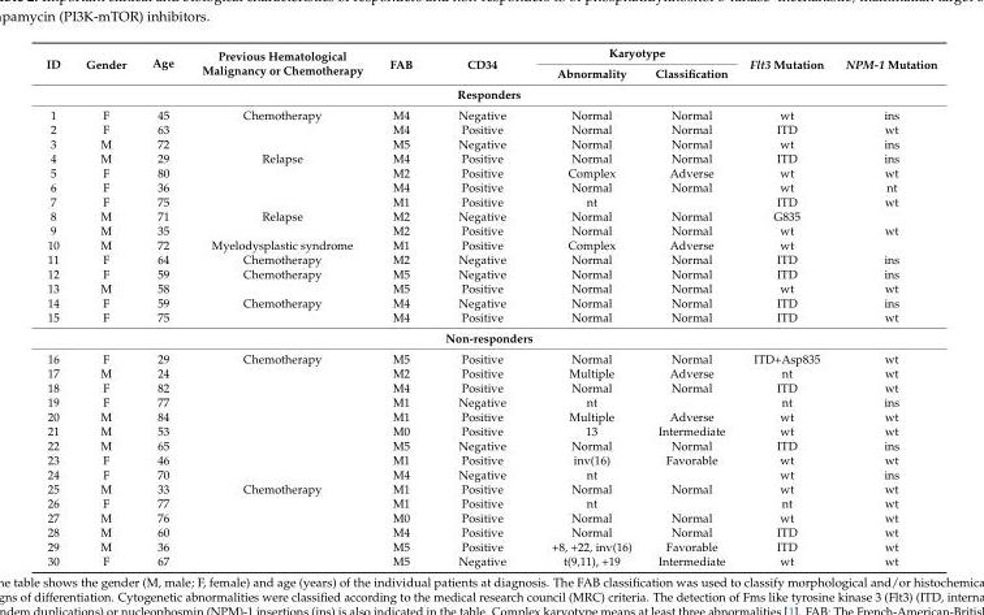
<table><thead><tr><td rowspan="2">ID</td><td rowspan="2">Gender</td><td rowspan="2">Age</td><td rowspan="2">Previous Hematological Malignancy or Chemotherapy</td><td rowspan="2">FAB</td><td rowspan="2">CD34</td><td colspan="2">Karyotype</td><td rowspan="2">Flt3 Mutation</td><td rowspan="2">NPM-1 Mutation</td></tr><tr><td>Abnormality</td><td>Classification</td></tr></thead><tbody><tr><td colspan="10">Responders</td></tr><tr><td>1</td><td>F</td><td>45</td><td>Chemotherapy</td><td>M4</td><td>Negative</td><td>Normal</td><td>Normal</td><td>wt</td><td>ins</td></tr><tr><td>2</td><td>F</td><td>63</td><td></td><td>M4</td><td>Positive</td><td>Normal</td><td>Normal</td><td>ITD</td><td>wt</td></tr><tr><td>3</td><td>M</td><td>72</td><td></td><td>M5</td><td>Negative</td><td>Normal</td><td>Normal</td><td>wt</td><td>ins</td></tr><tr><td>4</td><td>M</td><td>29</td><td>Relapse</td><td>M4</td><td>Positive</td><td>Normal</td><td>Normal</td><td>ITD</td><td>ins</td></tr><tr><td>5</td><td>F</td><td>80</td><td></td><td>M2</td><td>Positive</td><td>Complex</td><td>Adverse</td><td>wt</td><td>wt</td></tr><tr><td>6</td><td>F</td><td>36</td><td></td><td>M4</td><td>Positive</td><td>Normal</td><td>Normal</td><td>wt</td><td>nt</td></tr><tr><td>7</td><td>F</td><td>75</td><td></td><td>M1</td><td>Positive</td><td>nt</td><td></td><td>ITD</td><td>wt</td></tr><tr><td>8</td><td>M</td><td>71</td><td>Relapse</td><td>M2</td><td>Negative</td><td>Normal</td><td>Normal</td><td>G835</td><td></td></tr><tr><td>9</td><td>M</td><td>35</td><td></td><td>M2</td><td>Positive</td><td>Normal</td><td>Normal</td><td>wt</td><td>wt</td></tr><tr><td>10</td><td>M</td><td>72</td><td>Myelodysplastic syndrome</td><td>M1</td><td>Positive</td><td>Complex</td><td>Adverse</td><td>wt</td><td></td></tr><tr><td>11</td><td>F</td><td>64</td><td>Chemotherapy</td><td>M2</td><td>Negative</td><td>Normal</td><td>Normal</td><td>ITD</td><td>ins</td></tr><tr><td>12</td><td>F</td><td>59</td><td>Chemotherapy</td><td>M5</td><td>Negative</td><td>Normal</td><td>Normal</td><td>ITD</td><td>ins</td></tr><tr><td>13</td><td>M</td><td>58</td><td></td><td>M5</td><td>Positive</td><td>Normal</td><td>Normal</td><td>wt</td><td>wt</td></tr><tr><td>14</td><td>F</td><td>59</td><td>Chemotherapy</td><td>M4</td><td>Negative</td><td>Normal</td><td>Normal</td><td>ITD</td><td>ins</td></tr><tr><td>15</td><td>F</td><td>75</td><td></td><td>M4</td><td>Positive</td><td>Normal</td><td>Normal</td><td>ITD</td><td>wt</td></tr><tr><td colspan="10">Non-responders</td></tr><tr><td>16</td><td>F</td><td>29</td><td>Chemotherapy</td><td>M5</td><td>Positive</td><td>Normal</td><td>Normal</td><td>ITD+Asp835</td><td>wt</td></tr><tr><td>17</td><td>M</td><td>24</td><td></td><td>M2</td><td>Positive</td><td>Multiple</td><td>Adverse</td><td>nt</td><td>wt</td></tr><tr><td>18</td><td>F</td><td>82</td><td></td><td>M4</td><td>Positive</td><td>Normal</td><td>Normal</td><td>ITD</td><td>wt</td></tr><tr><td>19</td><td>F</td><td>77</td><td></td><td>M1</td><td>Negative</td><td>nt</td><td></td><td>nt</td><td>ins</td></tr><tr><td>20</td><td>M</td><td>84</td><td></td><td>M1</td><td>Positive</td><td>Multiple</td><td>Adverse</td><td>wt</td><td>wt</td></tr><tr><td>21</td><td>M</td><td>53</td><td></td><td>M0</td><td>Positive</td><td>13</td><td>Intermediate</td><td>wt</td><td>wt</td></tr><tr><td>22</td><td>M</td><td>65</td><td></td><td>M5</td><td>Negative</td><td>Normal</td><td>Normal</td><td>ITD</td><td>ins</td></tr><tr><td>23</td><td>F</td><td>46</td><td></td><td>M1</td><td>Positive</td><td>inv(16)</td><td>Favorable</td><td>wt</td><td>wt</td></tr><tr><td>24</td><td>F</td><td>70</td><td></td><td>M4</td><td>Negative</td><td>nt</td><td></td><td>wt</td><td>ins</td></tr><tr><td>25</td><td>M</td><td>33</td><td>Chemotherapy</td><td>M1</td><td>Positive</td><td>Normal</td><td>Normal</td><td>wt</td><td>wt</td></tr><tr><td>26</td><td>F</td><td>77</td><td></td><td>M1</td><td>Positive</td><td>nt</td><td></td><td>nt</td><td>wt</td></tr><tr><td>27</td><td>M</td><td>76</td><td></td><td>M0</td><td>Positive</td><td>Normal</td><td>Normal</td><td>wt</td><td>wt</td></tr><tr><td>28</td><td>M</td><td>60</td><td></td><td>M4</td><td>Positive</td><td>Normal</td><td>Normal</td><td>ITD</td><td>wt</td></tr><tr><td>29</td><td>M</td><td>36</td><td></td><td>M5</td><td>Positive</td><td>+8, +22, inv(16)</td><td>Favorable</td><td>ITD</td><td>wt</td></tr><tr><td>30</td><td>F</td><td>67</td><td></td><td>M5</td><td>Negative</td><td>t(9,11), +19</td><td>Intermediate</td><td>wt</td><td>wt</td></tr></tbody></table>